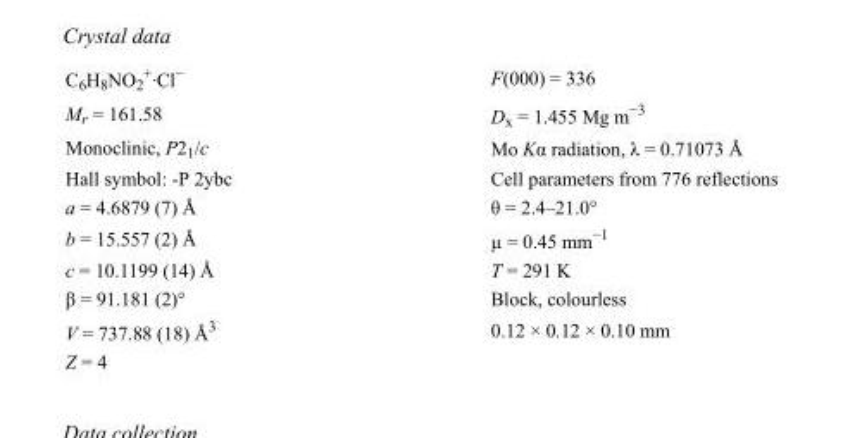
<table><tbody><tr><td>C<sub>6</sub>H<sub>8</sub>NO<sub>2</sub> <sup>+</sup>·Cl<sup>−</sup></td><td>F(000) = 336</td></tr><tr><td>M<sub>r</sub> = 161.58</td><td>D<sub>x</sub> = 1.455 Mg m<sup>−3</sup></td></tr><tr><td>Monoclinic, P2<sub>1</sub>/c</td><td>Mo Kα radiation, λ = 0.71073 Å</td></tr><tr><td>Hall symbol: -P 2ybc</td><td>Cell parameters from 776 reflections</td></tr><tr><td>a = 4.6879 (7) Å</td><td>θ = 2.4–21.0°</td></tr><tr><td>b = 15.557 (2) Å</td><td>µ = 0.45 mm<sup>−1</sup></td></tr><tr><td>c = 10.1199 (14) Å</td><td>T = 291 K</td></tr><tr><td>β = 91.181 (2)°</td><td>Block, colourless</td></tr><tr><td>V = 737.88 (18) Å<sup>3</sup></td><td>0.12 × 0.12 × 0.10 mm</td></tr><tr><td>Z = 4</td><td></td></tr></tbody></table>